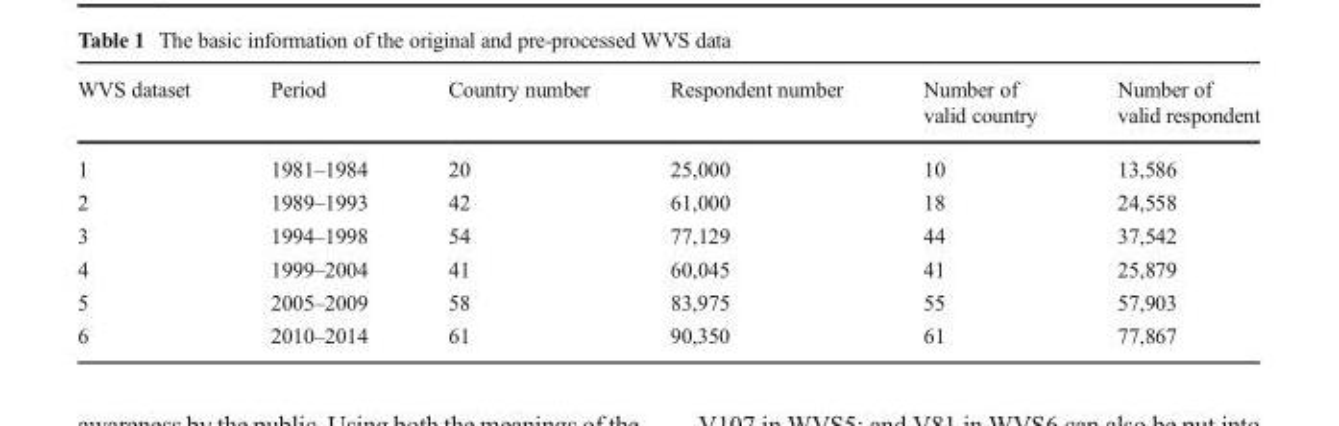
<table><thead><tr><td>WVS dataset</td><td>Period</td><td>Country number</td><td>Respondent number</td><td>Number of valid country</td><td>Number of valid respondent</td></tr></thead><tbody><tr><td>1</td><td>1981–1984</td><td>20</td><td>25,000</td><td>10</td><td>13,586</td></tr><tr><td>2</td><td>1989–1993</td><td>42</td><td>61,000</td><td>18</td><td>24,558</td></tr><tr><td>3</td><td>1994–1998</td><td>54</td><td>77,129</td><td>44</td><td>37,542</td></tr><tr><td>4</td><td>1999–2004</td><td>41</td><td>60,045</td><td>41</td><td>25,879</td></tr><tr><td>5</td><td>2005–2009</td><td>58</td><td>83,975</td><td>55</td><td>57,903</td></tr><tr><td>6</td><td>2010–2014</td><td>61</td><td>90,350</td><td>61</td><td>77,867</td></tr></tbody></table>